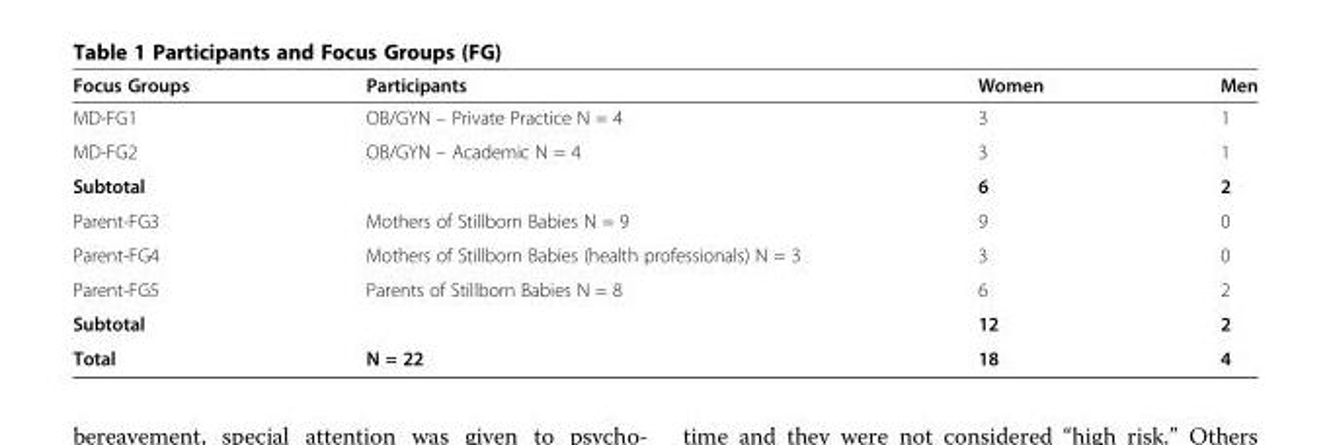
<table><thead><tr><td>Focus Groups</td><td>Participants</td><td>Women</td><td>Men</td></tr></thead><tbody><tr><td>MD-FG1</td><td>OB/GYN – Private Practice N = 4</td><td>3</td><td>1</td></tr><tr><td>MD-FG2</td><td>OB/GYN – Academic N = 4</td><td>3</td><td>1</td></tr><tr><td>Subtotal</td><td></td><td>6</td><td>2</td></tr><tr><td>Parent-FG3</td><td>Mothers of Stillborn Babies N = 9</td><td>9</td><td>0</td></tr><tr><td>Parent-FG4</td><td>Mothers of Stillborn Babies (health professionals) N = 3</td><td>3</td><td>0</td></tr><tr><td>Parent-FG5</td><td>Parents of Stillborn Babies N = 8</td><td>6</td><td>2</td></tr><tr><td>Subtotal</td><td></td><td>12</td><td>2</td></tr><tr><td>Total</td><td>N = 22</td><td>18</td><td>4</td></tr></tbody></table>